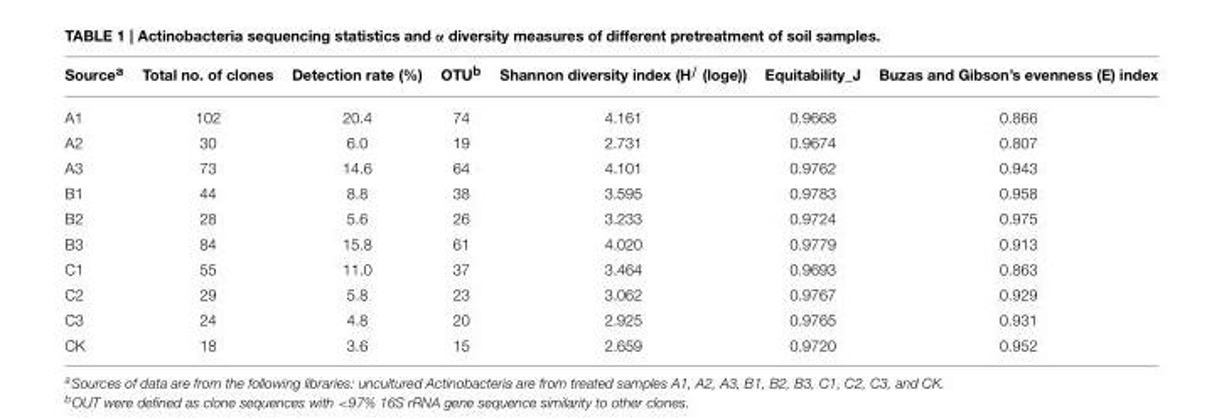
<table><thead><tr><td>Source<sup>a</sup></td><td>Total no. of clones</td><td>Detection rate (%)</td><td>OTU<sup>b</sup></td><td>Shannon diversity index (H/ (loge))</td><td>Equitability_J</td><td>Buzas and Gibson’s evenness (E) index</td></tr></thead><tbody><tr><td>A1</td><td>102</td><td>20.4</td><td>74</td><td>4.161</td><td>0.9668</td><td>0.866</td></tr><tr><td>A2</td><td>30</td><td>6.0</td><td>19</td><td>2.731</td><td>0.9674</td><td>0.807</td></tr><tr><td>A3</td><td>73</td><td>14.6</td><td>64</td><td>4.101</td><td>0.9762</td><td>0.943</td></tr><tr><td>B1</td><td>44</td><td>8.8</td><td>38</td><td>3.595</td><td>0.9783</td><td>0.958</td></tr><tr><td>B2</td><td>28</td><td>5.6</td><td>26</td><td>3.233</td><td>0.9724</td><td>0.975</td></tr><tr><td>B3</td><td>84</td><td>15.8</td><td>61</td><td>4.020</td><td>0.9779</td><td>0.913</td></tr><tr><td>C1</td><td>55</td><td>11.0</td><td>37</td><td>3.464</td><td>0.9693</td><td>0.863</td></tr><tr><td>C2</td><td>29</td><td>5.8</td><td>23</td><td>3.062</td><td>0.9767</td><td>0.929</td></tr><tr><td>C3</td><td>24</td><td>4.8</td><td>20</td><td>2.925</td><td>0.9765</td><td>0.931</td></tr><tr><td>CK</td><td>18</td><td>3.6</td><td>15</td><td>2.659</td><td>0.9720</td><td>0.952</td></tr></tbody></table>